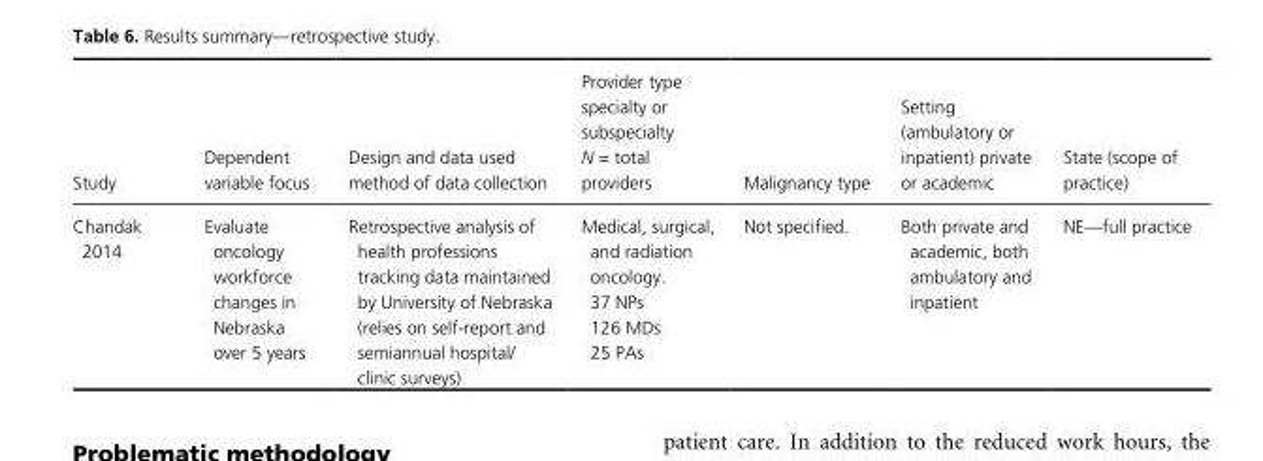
<table><thead><tr><td>Study</td><td>Dependent variable focus</td><td>Design and data used method of data collection</td><td>Provider type specialty or subspecialty N = total providers</td><td>Malignancy type</td><td>Setting (ambulatory or inpatient) private or academic</td><td>State (scope of practice)</td></tr></thead><tbody><tr><td>Chandak 2014</td><td>Evaluate oncology workforce changes in Nebraska over 5 years</td><td>Retrospective analysis of health professions tracking data maintained by University of Nebraska (relies on self- report and semiannual hospital/ clinic surveys)</td><td>Medical, surgical, and radiation oncology. 37 NPs 126 MDs 25 PAs</td><td>Not specified.</td><td>Both private and academic, both ambulatory and inpatient</td><td>NE—full practice</td></tr></tbody></table>